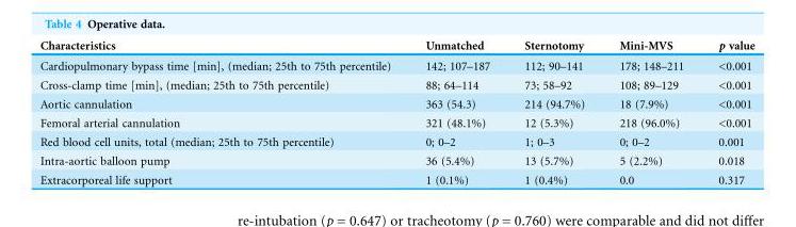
<table><thead><tr><td>Characteristics</td><td>Unmatched</td><td>Sternotomy</td><td>Mini-MVS</td><td>p value</td></tr></thead><tbody><tr><td>Cardiopulmonary bypass time [min], (median; 25th to 75th percentile)</td><td>142; 107–187</td><td>112; 90–141</td><td>178; 148–211</td><td>&lt;0.001</td></tr><tr><td>Cross-clamp time [min], (median; 25th to 75th percentile)</td><td>88; 64–114</td><td>73; 58–92</td><td>108; 89–129</td><td>&lt;0.001</td></tr><tr><td>Aortic cannulation</td><td>363 (54.3)</td><td>214 (94.7%)</td><td>18 (7.9%)</td><td>&lt;0.001</td></tr><tr><td>Femoral arterial cannulation</td><td>321 (48.1%)</td><td>12 (5.3%)</td><td>218 (96.0%)</td><td>&lt;0.001</td></tr><tr><td>Red blood cell units, total (median; 25th to 75th percentile)</td><td>0; 0–2</td><td>1; 0–3</td><td>0; 0–2</td><td>0.001</td></tr><tr><td>Intra-aortic balloon pump</td><td>36 (5.4%)</td><td>13 (5.7%)</td><td>5 (2.2%)</td><td>0.018</td></tr><tr><td>Extracorporeal life support</td><td>1 (0.1%)</td><td>1 (0.4%)</td><td>0.0</td><td>0.317</td></tr></tbody></table>